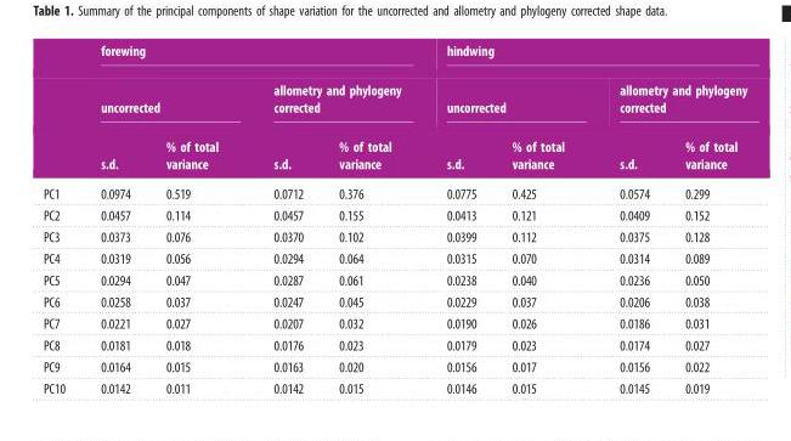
<table><thead><tr><td rowspan="3"></td><td colspan="4">forewing</td><td colspan="4">hindwing</td></tr><tr><td colspan="2">uncorrected</td><td colspan="2">allometry and phylogeny corrected</td><td colspan="2">uncorrected</td><td colspan="2">allometry and phylogeny corrected</td></tr><tr><td>s.d.</td><td>% of total variance</td><td>s.d.</td><td>% of total variance</td><td>s.d.</td><td>% of total variance</td><td>s.d.</td><td>% of total variance</td></tr></thead><tbody><tr><td>PC1</td><td>0.0974</td><td>0.519</td><td>0.0712</td><td>0.376</td><td>0.0775</td><td>0.425</td><td>0.0574</td><td>0.299</td></tr><tr><td>PC2</td><td>0.0457</td><td>0.114</td><td>0.0457</td><td>0.155</td><td>0.0413</td><td>0.121</td><td>0.0409</td><td>0.152</td></tr><tr><td>PC3</td><td>0.0373</td><td>0.076</td><td>0.0370</td><td>0.102</td><td>0.0399</td><td>0.112</td><td>0.0375</td><td>0.128</td></tr><tr><td>PC4</td><td>0.0319</td><td>0.056</td><td>0.0294</td><td>0.064</td><td>0.0315</td><td>0.070</td><td>0.0314</td><td>0.089</td></tr><tr><td>PC5</td><td>0.0294</td><td>0.047</td><td>0.0287</td><td>0.061</td><td>0.0238</td><td>0.040</td><td>0.0236</td><td>0.050</td></tr><tr><td>PC6</td><td>0.0258</td><td>0.037</td><td>0.0247</td><td>0.045</td><td>0.0229</td><td>0.037</td><td>0.0206</td><td>0.038</td></tr><tr><td>PC7</td><td>0.0221</td><td>0.027</td><td>0.0207</td><td>0.032</td><td>0.0190</td><td>0.026</td><td>0.0186</td><td>0.031</td></tr><tr><td>PC8</td><td>0.0181</td><td>0.018</td><td>0.0176</td><td>0.023</td><td>0.0179</td><td>0.023</td><td>0.0174</td><td>0.027</td></tr><tr><td>PC9</td><td>0.0164</td><td>0.015</td><td>0.0163</td><td>0.020</td><td>0.0156</td><td>0.017</td><td>0.0156</td><td>0.022</td></tr><tr><td>PC10</td><td>0.0142</td><td>0.011</td><td>0.0142</td><td>0.015</td><td>0.0146</td><td>0.015</td><td>0.0145</td><td>0.019</td></tr></tbody></table>